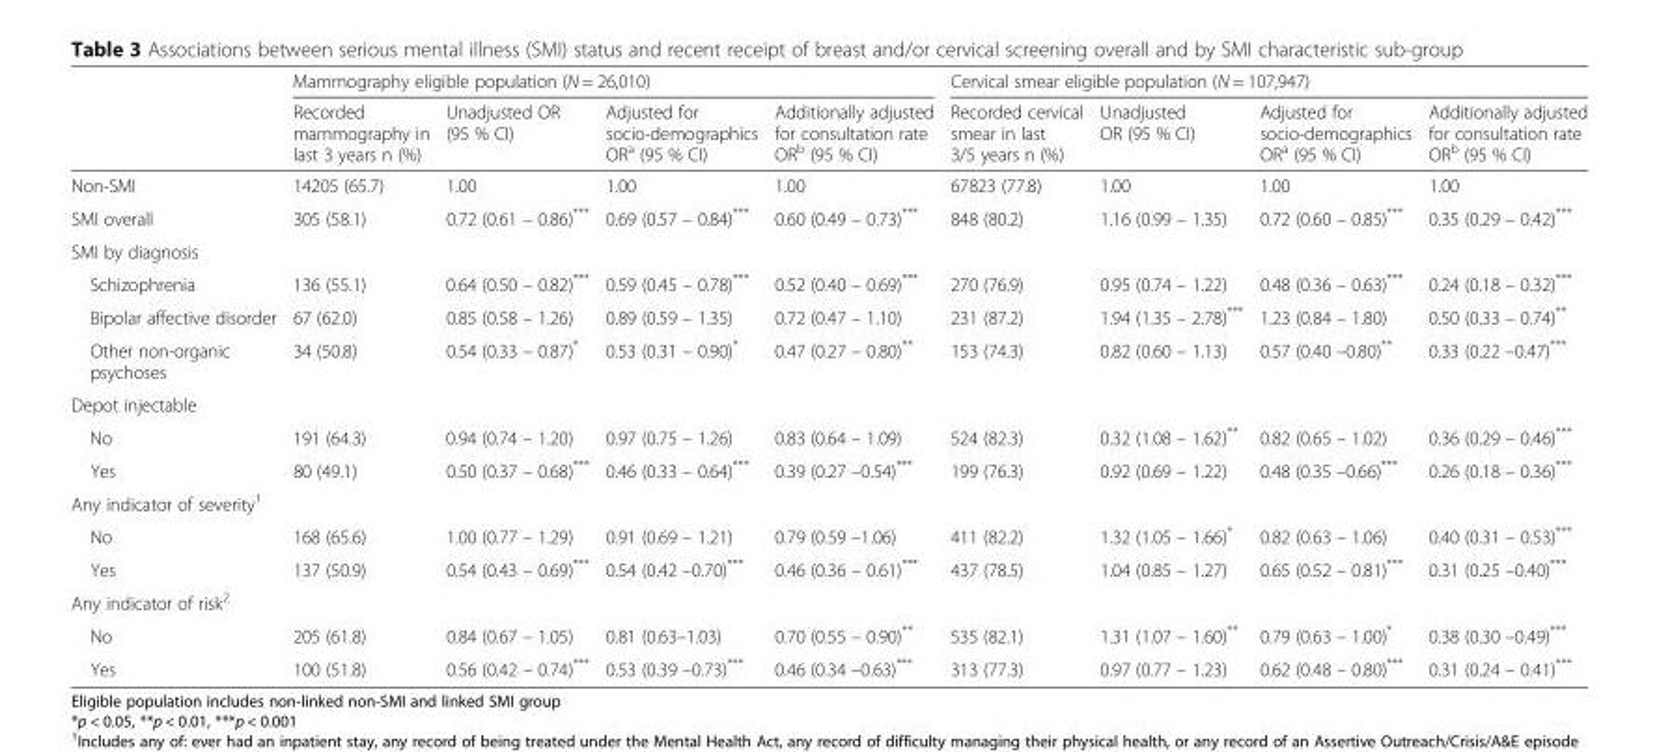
<table><thead><tr><td rowspan="2"></td><td colspan="4">Mammography eligible population (N = 26,010)</td><td colspan="4">Cervical smear eligible population (N = 107,947)</td></tr><tr><td>Recorded mammography in last 3 years n (%)</td><td>Unadjusted OR (95 % CI)</td><td>Adjusted for socio-demographics OR<sup>a</sup> (95 % CI)</td><td>Additionally adjusted for consultation rate OR<sup>b</sup> (95 % CI)</td><td>Recorded cervical smear in last 3/5 years n (%)</td><td>Unadjusted OR (95 % CI)</td><td>Adjusted for socio-demographics OR<sup>a</sup> (95 % CI)</td><td>Additionally adjusted for consultation rate OR<sup>b</sup> (95 % CI)</td></tr></thead><tbody><tr><td>Non-SMI</td><td>14205 (65.7)</td><td>1.00</td><td>1.00</td><td>1.00</td><td>67823 (77.8)</td><td>1.00</td><td>1.00</td><td>1.00</td></tr><tr><td>SMI overall</td><td>305 (58.1)</td><td>0.72 (0.61 – 0.86)***</td><td>0.69 (0.57 – 0.84)***</td><td>0.60 (0.49 – 0.73)***</td><td>848 (80.2)</td><td>1.16 (0.99 – 1.35)</td><td>0.72 (0.60 – 0.85)***</td><td>0.35 (0.29 – 0.42)***</td></tr><tr><td colspan="9">SMI by diagnosis</td></tr><tr><td>Schizophrenia</td><td>136 (55.1)</td><td>0.64 (0.50 – 0.82)***</td><td>0.59 (0.45 – 0.78)***</td><td>0.52 (0.40 – 0.69)***</td><td>270 (76.9)</td><td>0.95 (0.74 – 1.22)</td><td>0.48 (0.36 – 0.63)***</td><td>0.24 (0.18 – 0.32)***</td></tr><tr><td>Bipolar affective disorder</td><td>67 (62.0)</td><td>0.85 (0.58 – 1.26)</td><td>0.89 (0.59 – 1.35)</td><td>0.72 (0.47 – 1.10)</td><td>231 (87.2)</td><td>1.94 (1.35 – 2.78)***</td><td>1.23 (0.84 – 1.80)</td><td>0.50 (0.33 – 0.74)**</td></tr><tr><td>Other non-organic psychoses</td><td>34 (50.8)</td><td>0.54 (0.33 – 0.87)*</td><td>0.53 (0.31 – 0.90)*</td><td>0.47 (0.27 – 0.80)**</td><td>153 (74.3)</td><td>0.82 (0.60 – 1.13)</td><td>0.57 (0.40 –0.80)**</td><td>0.33 (0.22 –0.47)***</td></tr><tr><td colspan="9">Depot injectable</td></tr><tr><td>No</td><td>191 (64.3)</td><td>0.94 (0.74 – 1.20)</td><td>0.97 (0.75 – 1.26)</td><td>0.83 (0.64 – 1.09)</td><td>524 (82.3)</td><td>0.32 (1.08 – 1.62)**</td><td>0.82 (0.65 – 1.02)</td><td>0.36 (0.29 – 0.46)***</td></tr><tr><td>Yes</td><td>80 (49.1)</td><td>0.50 (0.37 – 0.68)***</td><td>0.46 (0.33 – 0.64)***</td><td>0.39 (0.27 –0.54)***</td><td>199 (76.3)</td><td>0.92 (0.69 – 1.22)</td><td>0.48 (0.35 –0.66)***</td><td>0.26 (0.18 – 0.36)***</td></tr><tr><td colspan="9">Any indicator of severity<sup>1</sup></td></tr><tr><td>No</td><td>168 (65.6)</td><td>1.00 (0.77 – 1.29)</td><td>0.91 (0.69 – 1.21)</td><td>0.79 (0.59 –1.06)</td><td>411 (82.2)</td><td>1.32 (1.05 – 1.66)*</td><td>0.82 (0.63 – 1.06)</td><td>0.40 (0.31 – 0.53)***</td></tr><tr><td>Yes</td><td>137 (50.9)</td><td>0.54 (0.43 – 0.69)***</td><td>0.54 (0.42 –0.70)***</td><td>0.46 (0.36 – 0.61)***</td><td>437 (78.5)</td><td>1.04 (0.85 – 1.27)</td><td>0.65 (0.52 – 0.81)***</td><td>0.31 (0.25 –0.40)***</td></tr><tr><td colspan="9">Any indicator of risk<sup>2</sup></td></tr><tr><td>No</td><td>205 (61.8)</td><td>0.84 (0.67 – 1.05)</td><td>0.81 (0.63–1.03)</td><td>0.70 (0.55 – 0.90)**</td><td>535 (82.1)</td><td>1.31 (1.07 – 1.60)**</td><td>0.79 (0.63 – 1.00)*</td><td>0.38 (0.30 –0.49)***</td></tr><tr><td>Yes</td><td>100 (51.8)</td><td>0.56 (0.42 – 0.74)***</td><td>0.53 (0.39 –0.73)***</td><td>0.46 (0.34 –0.63)***</td><td>313 (77.3)</td><td>0.97 (0.77 – 1.23)</td><td>0.62 (0.48 – 0.80)***</td><td>0.31 (0.24 – 0.41)***</td></tr></tbody></table>